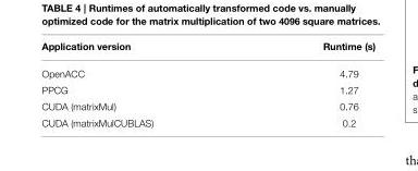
<table><thead><tr><td>Application version</td><td>Runtime (s)</td></tr></thead><tbody><tr><td>OpenACC</td><td>4.79</td></tr><tr><td>PPCG</td><td>1.27</td></tr><tr><td>CUDA (matrixMul)</td><td>0.76</td></tr><tr><td>CUDA (matrixMulCUBLAS)</td><td>0.2</td></tr></tbody></table>